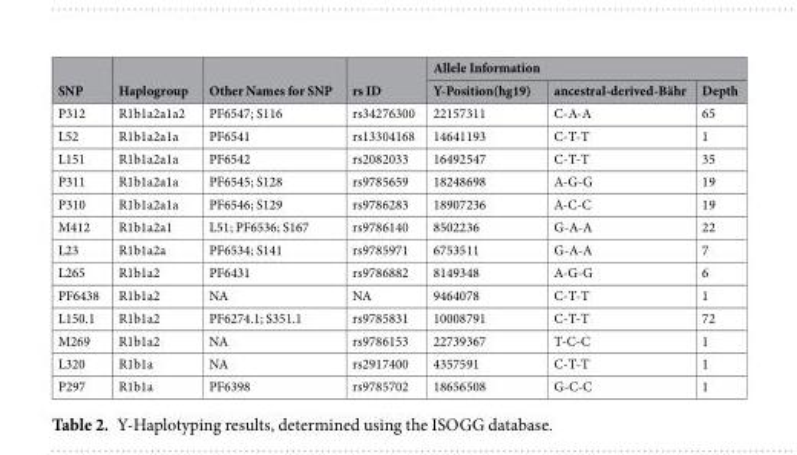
<table><thead><tr><td rowspan="2">SNP</td><td rowspan="2">Haplogroup</td><td rowspan="2">Other Names for SNP</td><td rowspan="2">rs ID</td><td colspan="3">Allele Information</td></tr><tr><td>Y-Position(hg19)</td><td>ancestral-derived-Bähr</td><td>Depth</td></tr></thead><tbody><tr><td>P312</td><td>R1b1a2a1a2</td><td>PF6547; S116</td><td>rs34276300</td><td>22157311</td><td>C-A-A</td><td>65</td></tr><tr><td>L52</td><td>R1b1a2a1a</td><td>PF6541</td><td>rs13304168</td><td>14641193</td><td>C-T-T</td><td>1</td></tr><tr><td>L151</td><td>R1b1a2a1a</td><td>PF6542</td><td>rs2082033</td><td>16492547</td><td>C-T-T</td><td>35</td></tr><tr><td>P311</td><td>R1b1a2a1a</td><td>PF6545; S128</td><td>rs9785659</td><td>18248698</td><td>A-G-G</td><td>19</td></tr><tr><td>P310</td><td>R1b1a2a1a</td><td>PF6546; S129</td><td>rs9786283</td><td>18907236</td><td>A-C-C</td><td>19</td></tr><tr><td>M412</td><td>R1b1a2a1</td><td>L51; PF6536; S167</td><td>rs9786140</td><td>8502236</td><td>G-A-A</td><td>22</td></tr><tr><td>L23</td><td>R1b1a2a</td><td>PF6534; S141</td><td>rs9785971</td><td>6753511</td><td>G-A-A</td><td>7</td></tr><tr><td>L265</td><td>R1b1a2</td><td>PF6431</td><td>rs9786882</td><td>8149348</td><td>A-G-G</td><td>6</td></tr><tr><td>PF6438</td><td>R1b1a2</td><td>NA</td><td>NA</td><td>9464078</td><td>C-T-T</td><td>1</td></tr><tr><td>L150.1</td><td>R1b1a2</td><td>PF6274.1; S351.1</td><td>rs9785831</td><td>10008791</td><td>C-T-T</td><td>72</td></tr><tr><td>M269</td><td>R1b1a2</td><td>NA</td><td>rs9786153</td><td>22739367</td><td>T-C-C</td><td>1</td></tr><tr><td>L320</td><td>R1b1a</td><td>NA</td><td>rs2917400</td><td>4357591</td><td>C-T-T</td><td>1</td></tr><tr><td>P297</td><td>R1b1a</td><td>PF6398</td><td>rs9785702</td><td>18656508</td><td>G-C-C</td><td>1</td></tr></tbody></table>